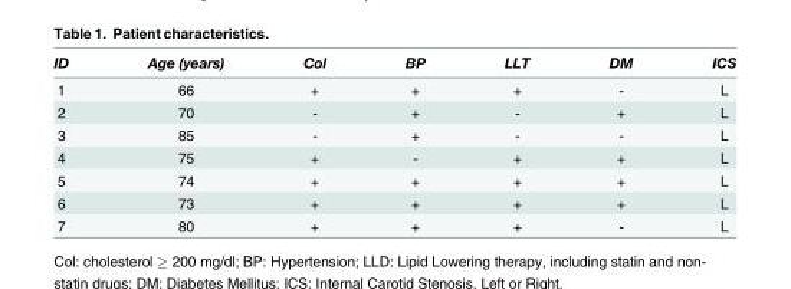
<table><thead><tr><td>ID</td><td>Age (years)</td><td>Col</td><td>BP</td><td>LLT</td><td>DM</td><td>ICS</td></tr></thead><tbody><tr><td>1</td><td>66</td><td>+</td><td>+</td><td>+</td><td>-</td><td>L</td></tr><tr><td>2</td><td>70</td><td>-</td><td>+</td><td>-</td><td>+</td><td>L</td></tr><tr><td>3</td><td>85</td><td>-</td><td>+</td><td>-</td><td>-</td><td>L</td></tr><tr><td>4</td><td>75</td><td>+</td><td>-</td><td>+</td><td>+</td><td>L</td></tr><tr><td>5</td><td>74</td><td>+</td><td>+</td><td>+</td><td>+</td><td>L</td></tr><tr><td>6</td><td>73</td><td>+</td><td>+</td><td>+</td><td>+</td><td>L</td></tr><tr><td>7</td><td>80</td><td>+</td><td>+</td><td>+</td><td>-</td><td>L</td></tr></tbody></table>